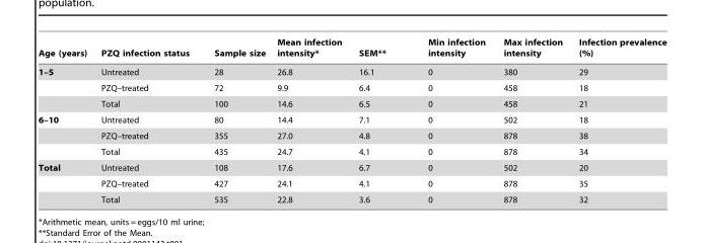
<table><thead><tr><td>Age (years)</td><td>PZQ infection status</td><td>Sample size</td><td>Mean infection intensity*</td><td>SEM**</td><td>Min infection intensity</td><td>Max infection intensity</td><td>Infection prevalence (%)</td></tr></thead><tbody><tr><td rowspan="3">1–5</td><td>Untreated</td><td>28</td><td>26.8</td><td>16.1</td><td>0</td><td>380</td><td>29</td></tr><tr><td>PZQ–treated</td><td>72</td><td>9.9</td><td>6.4</td><td>0</td><td>458</td><td>18</td></tr><tr><td>Total</td><td>100</td><td>14.6</td><td>6.5</td><td>0</td><td>458</td><td>21</td></tr><tr><td rowspan="3">6–10</td><td>Untreated</td><td>80</td><td>14.4</td><td>7.1</td><td>0</td><td>502</td><td>18</td></tr><tr><td>PZQ–treated</td><td>355</td><td>27.0</td><td>4.8</td><td>0</td><td>878</td><td>38</td></tr><tr><td>Total</td><td>435</td><td>24.7</td><td>4.1</td><td>0</td><td>878</td><td>34</td></tr><tr><td rowspan="3">Total</td><td>Untreated</td><td>108</td><td>17.6</td><td>6.7</td><td>0</td><td>502</td><td>20</td></tr><tr><td>PZQ–treated</td><td>427</td><td>24.1</td><td>4.1</td><td>0</td><td>878</td><td>35</td></tr><tr><td>Total</td><td>535</td><td>22.8</td><td>3.6</td><td>0</td><td>878</td><td>32</td></tr></tbody></table>